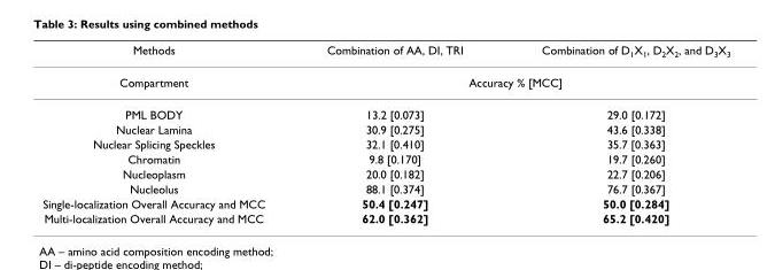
<table><thead><tr><td>Methods</td><td>Combination of AA, DI, TRI</td><td>Combination of D<sub>1</sub>X<sub>1</sub>, D<sub>2</sub>X<sub>2</sub>, and D<sub>3</sub>X<sub>3</sub></td></tr></thead><tbody><tr><td>Compartment</td><td colspan="2">Accuracy % [MCC]</td></tr><tr><td>PML BODY</td><td>13.2 [0.073]</td><td>29.0 [0.172]</td></tr><tr><td>Nuclear Lamina</td><td>30.9 [0.275]</td><td>43.6 [0.338]</td></tr><tr><td>Nuclear Splicing Speckles</td><td>32.1 [0.410]</td><td>35.7 [0.363]</td></tr><tr><td>Chromatin</td><td>9.8 [0.170]</td><td>19.7 [0.260]</td></tr><tr><td>Nucleoplasm</td><td>20.0 [0.182]</td><td>22.7 [0.206]</td></tr><tr><td>Nucleolus</td><td>88.1 [0.374]</td><td>76.7 [0.367]</td></tr><tr><td>Single-localization Overall Accuracy and MCC</td><td>50.4 [0.247]</td><td>50.0 [0.284]</td></tr><tr><td>Multi-localization Overall Accuracy and MCC</td><td>62.0 [0.362]</td><td>65.2 [0.420]</td></tr></tbody></table>